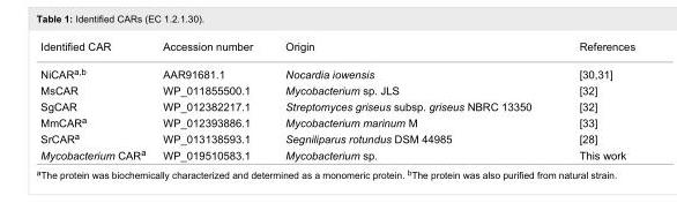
<table><tbody><tr><td>Identified CAR</td><td>Accession number</td><td>Origin</td><td>References</td></tr><tr><td>NiCAR<sup>a,b</sup></td><td>AAR91681.1</td><td>Nocardia iowensis</td><td>[30–31]</td></tr><tr><td>MsCAR</td><td>WP_011855500.1</td><td>Mycobacterium sp. JLS</td><td>[32]</td></tr><tr><td>SgCAR</td><td>WP_012382217.1</td><td>Streptomyces griseus subsp. griseus NBRC 13350</td><td>[32]</td></tr><tr><td>MmCAR<sup>a</sup></td><td>WP_012393886.1</td><td>Mycobacterium marinum M</td><td>[33]</td></tr><tr><td>SrCAR<sup>a</sup></td><td>WP_013138593.1</td><td>Segniliparus rotundus DSM 44985</td><td>[28]</td></tr><tr><td>Mycobacterium CAR<sup>a</sup></td><td>WP_019510583.1</td><td>Mycobacterium sp.</td><td>This work</td></tr></tbody></table>